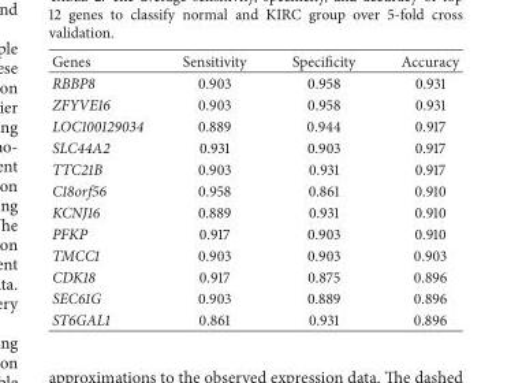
<table><thead><tr><td>Genes</td><td>Sensitivity</td><td>Specificity</td><td>Accuracy</td></tr></thead><tbody><tr><td>RBBP8</td><td>0.903</td><td>0.958</td><td>0.931</td></tr><tr><td>ZFYVE16</td><td>0.903</td><td>0.958</td><td>0.931</td></tr><tr><td>LOC100129034</td><td>0.889</td><td>0.944</td><td>0.917</td></tr><tr><td>SLC44A2</td><td>0.931</td><td>0.903</td><td>0.917</td></tr><tr><td>TTC21B</td><td>0.903</td><td>0.931</td><td>0.917</td></tr><tr><td>C18orf56</td><td>0.958</td><td>0.861</td><td>0.910</td></tr><tr><td>KCNJ16</td><td>0.889</td><td>0.931</td><td>0.910</td></tr><tr><td>PFKP</td><td>0.917</td><td>0.903</td><td>0.910</td></tr><tr><td>TMCC1</td><td>0.903</td><td>0.903</td><td>0.903</td></tr><tr><td>CDK18</td><td>0.917</td><td>0.875</td><td>0.896</td></tr><tr><td>SEC61G</td><td>0.903</td><td>0.889</td><td>0.896</td></tr><tr><td>ST6GAL1</td><td>0.861</td><td>0.931</td><td>0.896</td></tr></tbody></table>